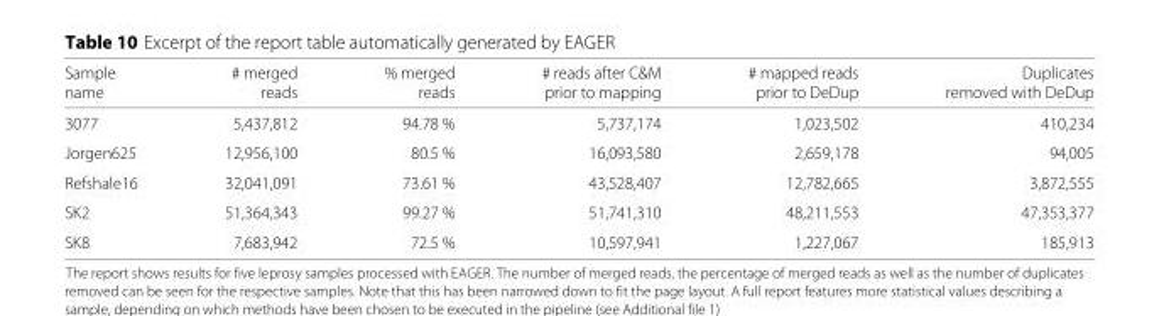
<table><thead><tr><td rowspan="2">Sample name</td><td rowspan="2"># merged reads</td><td rowspan="2">% merged reads</td><td rowspan="2"># reads after C&amp;M prior to mapping</td><td rowspan="2"># mapped reads prior to DeDup</td><td rowspan="2">Duplicates removed with DeDup</td></tr><tr></tr></thead><tbody><tr><td>3077</td><td>5,437,812</td><td>94.78 %</td><td>5,737,174</td><td>1,023,502</td><td>410,234</td></tr><tr><td>Jorgen625</td><td>12,956,100</td><td>80.5 %</td><td>16,093,580</td><td>2,659,178</td><td>94,005</td></tr><tr><td>Refshale16</td><td>32,041,091</td><td>73.61 %</td><td>43,528,407</td><td>12,782,665</td><td>3,872,555</td></tr><tr><td>SK2</td><td>51,364,343</td><td>99.27 %</td><td>51,741,310</td><td>48,211,553</td><td>47,353,377</td></tr><tr><td>SK8</td><td>7,683,942</td><td>72.5 %</td><td>10,597,941</td><td>1,227,067</td><td>185,913</td></tr></tbody></table>